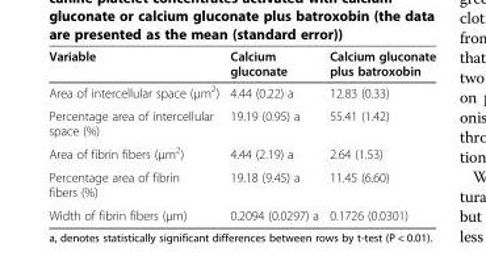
<table><thead><tr><td>Variable</td><td>Calcium gluconate</td><td>Calcium gluconate plus batroxobin</td></tr></thead><tbody><tr><td>Area of intercellular space (μm<sup>2</sup>)</td><td>4.44 (0.22) a</td><td>12.83 (0.33)</td></tr><tr><td>Percentage area of intercellular space (%)</td><td>19.19 (0.95) a</td><td>55.41 (1.42)</td></tr><tr><td>Area of fibrin fibers (μm<sup>2</sup>)</td><td>4.44 (2.19) a</td><td>2.64 (1.53)</td></tr><tr><td>Percentage area of fibrin fibers (%)</td><td>19.18 (9.45) a</td><td>11.45 (6.60)</td></tr><tr><td>Width of fibrin fibers (μm)</td><td>0.2094 (0.0297) a</td><td>0.1726 (0.0301)</td></tr></tbody></table>